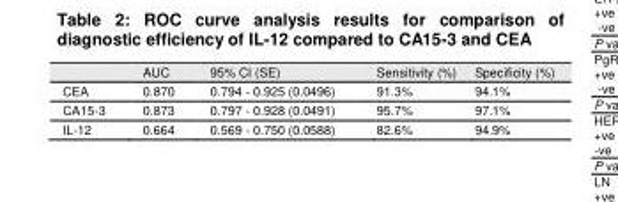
<table><thead><tr><td></td><td>AUC</td><td>95% CI (SE)</td><td>Sensitivity (%)</td><td>Specificity (%)</td></tr></thead><tbody><tr><td>CEA</td><td>0.870</td><td>0.794 - 0.925 (0.0496)</td><td>91.3%</td><td>94.1%</td></tr><tr><td>CA15-3</td><td>0.873</td><td>0.797 - 0.928 (0.0491)</td><td>95.7%</td><td>97.1%</td></tr><tr><td>IL-12</td><td>0.664</td><td>0.569 - 0.750 (0.0588)</td><td>82.6%</td><td>94.9%</td></tr></tbody></table>